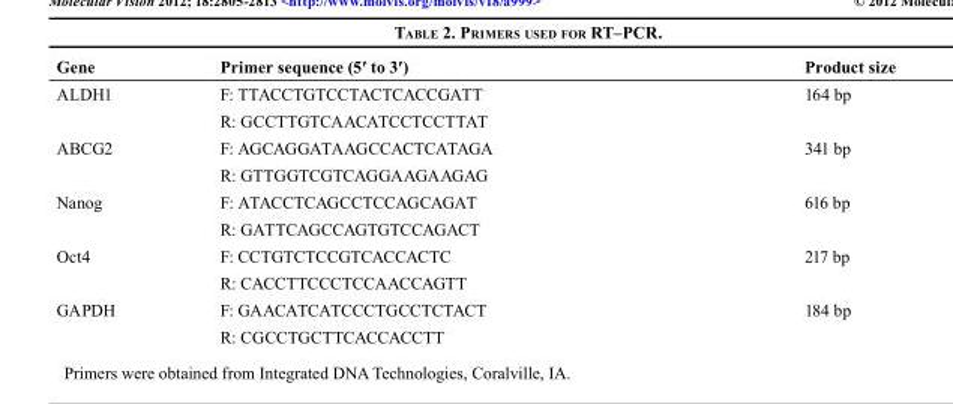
<table><thead><tr><td>Gene</td><td>Primer sequence (5′ to 3′)</td><td>Product size</td></tr></thead><tbody><tr><td rowspan="2">ALDH1</td><td>F: TTACCTGTCCTACTCACCGATT</td><td>164 bp</td></tr><tr><td>R: GCCTTGTCAACATCCTCCTTAT</td><td></td></tr><tr><td rowspan="2">ABCG2</td><td>F: AGCAGGATAAGCCACTCATAGA</td><td>341 bp</td></tr><tr><td>R: GTTGGTCGTCAGGAAGAAGAG</td><td></td></tr><tr><td rowspan="2">Nanog</td><td>F: ATACCTCAGCCTCCAGCAGAT</td><td>616 bp</td></tr><tr><td>R: GATTCAGCCAGTGTCCAGACT</td><td></td></tr><tr><td rowspan="2">Oct4</td><td>F: CCTGTCTCCGTCACCACTC</td><td>217 bp</td></tr><tr><td>R: CACCTTCCCTCCAACCAGTT</td><td></td></tr><tr><td rowspan="2">GAPDH</td><td>F: GAACATCATCCCTGCCTCTACT</td><td>184 bp</td></tr><tr><td>R: CGCCTGCTTCACCACCTT</td><td></td></tr></tbody></table>